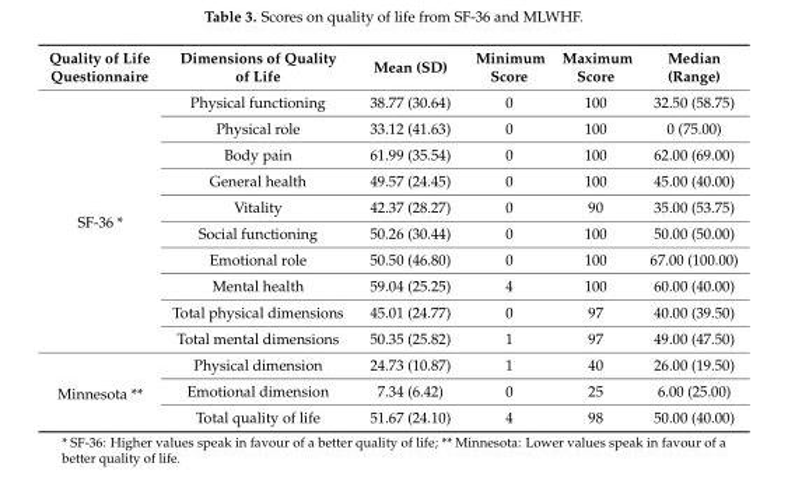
<table><thead><tr><td>Quality of Life Questionnaire</td><td>Dimensions of Quality of Life</td><td>Mean (SD)</td><td>Minimum Score</td><td>Maximum Score</td><td>Median (Range)</td></tr></thead><tbody><tr><td rowspan="10">SF-36 *</td><td>Physical functioning</td><td>38.77 (30.64)</td><td>0</td><td>100</td><td>32.50 (58.75)</td></tr><tr><td>Physical role</td><td>33.12 (41.63)</td><td>0</td><td>100</td><td>0 (75.00)</td></tr><tr><td>Body pain</td><td>61.99 (35.54)</td><td>0</td><td>100</td><td>62.00 (69.00)</td></tr><tr><td>General health</td><td>49.57 (24.45)</td><td>0</td><td>100</td><td>45.00 (40.00)</td></tr><tr><td>Vitality</td><td>42.37 (28.27)</td><td>0</td><td>90</td><td>35.00 (53.75)</td></tr><tr><td>Social functioning</td><td>50.26 (30.44)</td><td>0</td><td>100</td><td>50.00 (50.00)</td></tr><tr><td>Emotional role</td><td>50.50 (46.80)</td><td>0</td><td>100</td><td>67.00 (100.00)</td></tr><tr><td>Mental health</td><td>59.04 (25.25)</td><td>4</td><td>100</td><td>60.00 (40.00)</td></tr><tr><td>Total physical dimensions</td><td>45.01 (24.77)</td><td>0</td><td>97</td><td>40.00 (39.50)</td></tr><tr><td>Total mental dimensions</td><td>50.35 (25.82)</td><td>1</td><td>97</td><td>49.00 (47.50)</td></tr><tr><td rowspan="3">Minnesota **</td><td>Physical dimension</td><td>24.73 (10.87)</td><td>1</td><td>40</td><td>26.00 (19.50)</td></tr><tr><td>Emotional dimension</td><td>7.34 (6.42)</td><td>0</td><td>25</td><td>6.00 (25.00)</td></tr><tr><td>Total quality of life</td><td>51.67 (24.10)</td><td>4</td><td>98</td><td>50.00 (40.00)</td></tr></tbody></table>